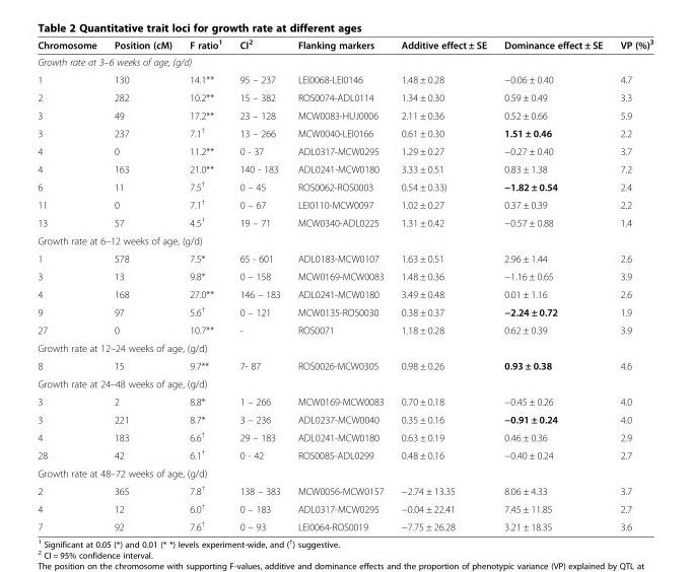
<table><thead><tr><td>Chromosome</td><td>Position (cM)</td><td>F ratio<sup>1</sup></td><td>CI<sup>2</sup></td><td>Flanking markers</td><td>Additive effect ± SE</td><td>Dominance effect ± SE</td><td>VP (%)<sup>3</sup></td></tr></thead><tbody><tr><td colspan="8">Growth rate at 3–6 weeks of age, (g/d)</td></tr><tr><td>1</td><td>130</td><td>14.1**</td><td>95 – 237</td><td>LEI0068-LEI0146</td><td>1.48 ± 0.28</td><td>−0.06 ± 0.40</td><td>4.7</td></tr><tr><td>2</td><td>282</td><td>10.2**</td><td>15 – 382</td><td>ROS0074-ADL0114</td><td>1.34 ± 0.30</td><td>0.59 ± 0.49</td><td>3.3</td></tr><tr><td>3</td><td>49</td><td>17.2**</td><td>23 – 128</td><td>MCW0083-HUJ0006</td><td>2.11 ± 0.36</td><td>0.52 ± 0.66</td><td>5.9</td></tr><tr><td>3</td><td>237</td><td>7.1<sup>†</sup></td><td>13 – 266</td><td>MCW0040-LEI0166</td><td>0.61 ± 0.30</td><td>1.51 ± 0.46</td><td>2.2</td></tr><tr><td>4</td><td>0</td><td>11.2**</td><td>0 - 37</td><td>ADL0317-MCW0295</td><td>1.29 ± 0.27</td><td>−0.27 ± 0.40</td><td>3.7</td></tr><tr><td>4</td><td>163</td><td>21.0**</td><td>140 - 183</td><td>ADL0241-MCW0180</td><td>3.33 ± 0.51</td><td>0.83 ± 1.38</td><td>7.2</td></tr><tr><td>6</td><td>11</td><td>7.5<sup>†</sup></td><td>0 – 45</td><td>ROS0062-ROS0003</td><td>0.54 ± 0.33)</td><td>−1.82 ± 0.54</td><td>2.4</td></tr><tr><td>11</td><td>0</td><td>7.1<sup>†</sup></td><td>0 – 67</td><td>LEI0110-MCW0097</td><td>1.02 ± 0.27</td><td>0.37 ± 0.39</td><td>2.2</td></tr><tr><td>13</td><td>57</td><td>4.5<sup>†</sup></td><td>19 – 71</td><td>MCW0340-ADL0225</td><td>1.31 ± 0.42</td><td>−0.57 ± 0.88</td><td>1.4</td></tr><tr><td colspan="8">Growth rate at 6–12 weeks of age, (g/d)</td></tr><tr><td>1</td><td>578</td><td>7.5*</td><td>65 - 601</td><td>ADL0183-MCW0107</td><td>1.63 ± 0.51</td><td>2.96 ± 1.44</td><td>2.6</td></tr><tr><td>3</td><td>13</td><td>9.8*</td><td>0 – 158</td><td>MCW0169-MCW0083</td><td>1.48 ± 0.36</td><td>−1.16 ± 0.65</td><td>3.9</td></tr><tr><td>4</td><td>168</td><td>27.0**</td><td>146 – 183</td><td>ADL0241-MCW0180</td><td>3.49 ± 0.48</td><td>0.01 ± 1.16</td><td>2.6</td></tr><tr><td>9</td><td>97</td><td>5.6<sup>†</sup></td><td>0 – 121</td><td>MCW0135-ROS0030</td><td>0.38 ± 0.37</td><td>−2.24 ± 0.72</td><td>1.9</td></tr><tr><td>27</td><td>0</td><td>10.7**</td><td>-</td><td>ROS0071</td><td>1.18 ± 0.28</td><td>0.62 ± 0.39</td><td>3.9</td></tr><tr><td colspan="8">Growth rate at 12–24 weeks of age, (g/d)</td></tr><tr><td>8</td><td>15</td><td>9.7**</td><td>7- 87</td><td>ROS0026-MCW0305</td><td>0.98 ± 0.26</td><td>0.93 ± 0.38</td><td>4.6</td></tr><tr><td colspan="8">Growth rate at 24–48 weeks of age, (g/d)</td></tr><tr><td>3</td><td>2</td><td>8.8*</td><td>1 – 266</td><td>MCW0169-MCW0083</td><td>0.70 ± 0.18</td><td>−0.45 ± 0.26</td><td>4.0</td></tr><tr><td>3</td><td>221</td><td>8.7*</td><td>3 – 236</td><td>ADL0237-MCW0040</td><td>0.35 ± 0.16</td><td>−0.91 ± 0.24</td><td>4.0</td></tr><tr><td>4</td><td>183</td><td>6.6<sup>†</sup></td><td>29 – 183</td><td>ADL0241-MCW0180</td><td>0.63 ± 0.19</td><td>0.46 ± 0.36</td><td>2.9</td></tr><tr><td>28</td><td>42</td><td>6.1<sup>†</sup></td><td>0 - 42</td><td>ROS0085-ADL0299</td><td>0.48 ± 0.16</td><td>−0.40 ± 0.24</td><td>2.7</td></tr><tr><td colspan="8">Growth rate at 48–72 weeks of age, (g/d)</td></tr><tr><td>2</td><td>365</td><td>7.8<sup>†</sup></td><td>138 – 383</td><td>MCW0056-MCW0157</td><td>−2.74 ± 13.35</td><td>8.06 ± 4.33</td><td>3.7</td></tr><tr><td>4</td><td>12</td><td>6.0<sup>†</sup></td><td>0 – 183</td><td>ADL0317-MCW0295</td><td>−0.04 ± 22.41</td><td>7.45 ± 11.85</td><td>2.7</td></tr><tr><td>7</td><td>92</td><td>7.6<sup>†</sup></td><td>0 – 93</td><td>LEI0064-ROS0019</td><td>−7.75 ± 26.28</td><td>3.21 ± 18.35</td><td>3.6</td></tr></tbody></table>